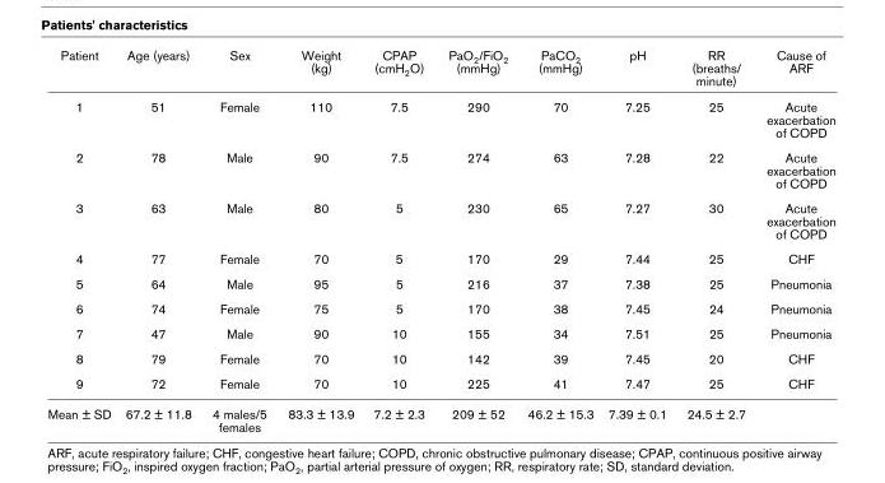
<table><thead><tr><td>Patient</td><td>Age (years)</td><td>Sex</td><td>Weight (kg)</td><td>CPAP (cmH<sub>2</sub>O)</td><td>PaO<sub>2</sub>/FiO<sub>2</sub> (mmHg)</td><td>PaCO<sub>2</sub> (mmHg)</td><td>pH</td><td>RR (breaths/ minute)</td><td>Cause of ARF</td></tr></thead><tbody><tr><td>1</td><td>51</td><td>Female</td><td>110</td><td>7.5</td><td>290</td><td>70</td><td>7.25</td><td>25</td><td>Acute exacerbation of COPD</td></tr><tr><td>2</td><td>78</td><td>Male</td><td>90</td><td>7.5</td><td>274</td><td>63</td><td>7.28</td><td>22</td><td>Acute exacerbation of COPD</td></tr><tr><td>3</td><td>63</td><td>Male</td><td>80</td><td>5</td><td>230</td><td>65</td><td>7.27</td><td>30</td><td>Acute exacerbation of COPD</td></tr><tr><td>4</td><td>77</td><td>Female</td><td>70</td><td>5</td><td>170</td><td>29</td><td>7.44</td><td>25</td><td>CHF</td></tr><tr><td>5</td><td>64</td><td>Male</td><td>95</td><td>5</td><td>216</td><td>37</td><td>7.38</td><td>25</td><td>Pneumonia</td></tr><tr><td>6</td><td>74</td><td>Female</td><td>75</td><td>5</td><td>170</td><td>38</td><td>7.45</td><td>24</td><td>Pneumonia</td></tr><tr><td>7</td><td>47</td><td>Male</td><td>90</td><td>10</td><td>155</td><td>34</td><td>7.51</td><td>25</td><td>Pneumonia</td></tr><tr><td>8</td><td>79</td><td>Female</td><td>70</td><td>10</td><td>142</td><td>39</td><td>7.45</td><td>20</td><td>CHF</td></tr><tr><td>9</td><td>72</td><td>Female</td><td>70</td><td>10</td><td>225</td><td>41</td><td>7.47</td><td>25</td><td>CHF</td></tr><tr><td>Mean ± SD</td><td>67.2 ± 11.8</td><td>4 males/5 females</td><td>83.3 ± 13.9</td><td>7.2 ± 2.3</td><td>209 ± 52</td><td>46.2 ± 15.3</td><td>7.39 ± 0.1</td><td>24.5 ± 2.7</td><td></td></tr></tbody></table>